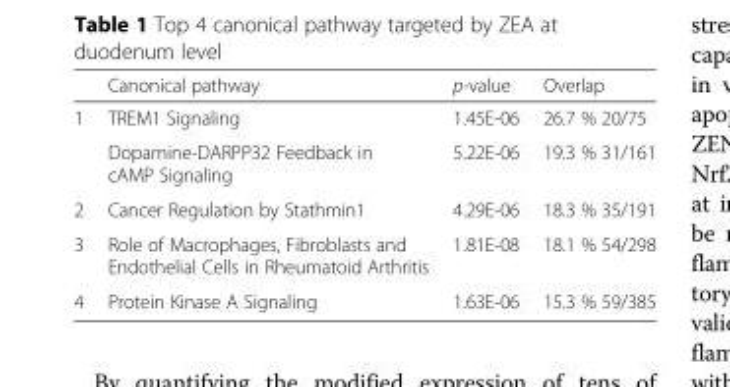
<table><thead><tr><td></td><td>Canonical pathway</td><td>p-value</td><td>Overlap</td></tr></thead><tbody><tr><td rowspan="2">1</td><td>TREM1 Signaling</td><td>1.45E-06</td><td>26.7 % 20/75</td></tr><tr><td>Dopamine-DARPP32 Feedback in cAMP Signaling</td><td>5.22E-06</td><td>19.3 % 31/161</td></tr><tr><td>2</td><td>Cancer Regulation by Stathmin1</td><td>4.29E-06</td><td>18.3 % 35/191</td></tr><tr><td>3</td><td>Role of Macrophages, Fibroblasts and Endothelial Cells in Rheumatoid Arthritis</td><td>1.81E-08</td><td>18.1 % 54/298</td></tr><tr><td>4</td><td>Protein Kinase A Signaling</td><td>1.63E-06</td><td>15.3 % 59/385</td></tr></tbody></table>